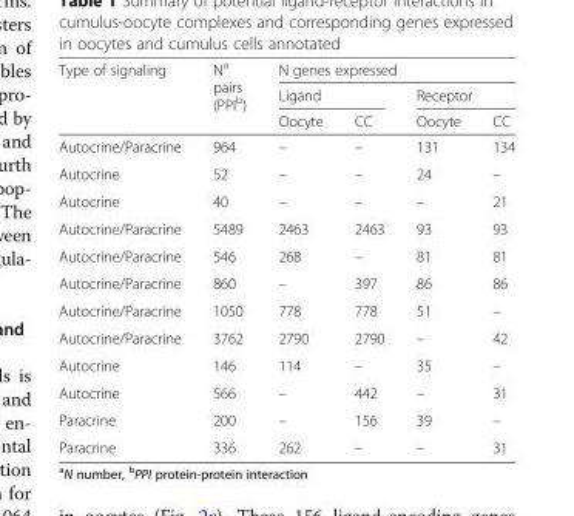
<table><thead><tr><td rowspan="3">Type of signaling</td><td rowspan="3">N<sup>a</sup> pairs (PPI<sup>b</sup>)</td><td colspan="4">N genes expressed</td></tr><tr><td colspan="2">Ligand</td><td colspan="2">Receptor</td></tr><tr><td>Oocyte</td><td>CC</td><td>Oocyte</td><td>CC</td></tr></thead><tbody><tr><td>Autocrine/Paracrine</td><td>964</td><td>–</td><td>–</td><td>131</td><td>134</td></tr><tr><td>Autocrine</td><td>52</td><td>–</td><td>–</td><td>24</td><td>–</td></tr><tr><td>Autocrine</td><td>40</td><td>–</td><td>–</td><td>–</td><td>21</td></tr><tr><td>Autocrine/Paracrine</td><td>5489</td><td>2463</td><td>2463</td><td>93</td><td>93</td></tr><tr><td>Autocrine/Paracrine</td><td>546</td><td>268</td><td>–</td><td>81</td><td>81</td></tr><tr><td>Autocrine/Paracrine</td><td>860</td><td>–</td><td>397</td><td>86</td><td>86</td></tr><tr><td>Autocrine/Paracrine</td><td>1050</td><td>778</td><td>778</td><td>51</td><td>–</td></tr><tr><td>Autocrine/Paracrine</td><td>3762</td><td>2790</td><td>2790</td><td>–</td><td>42</td></tr><tr><td>Autocrine</td><td>146</td><td>114</td><td>–</td><td>35</td><td>–</td></tr><tr><td>Autocrine</td><td>566</td><td>–</td><td>442</td><td>–</td><td>31</td></tr><tr><td>Paracrine</td><td>200</td><td>–</td><td>156</td><td>39</td><td>–</td></tr><tr><td>Paracrine</td><td>336</td><td>262</td><td>–</td><td>–</td><td>31</td></tr></tbody></table>